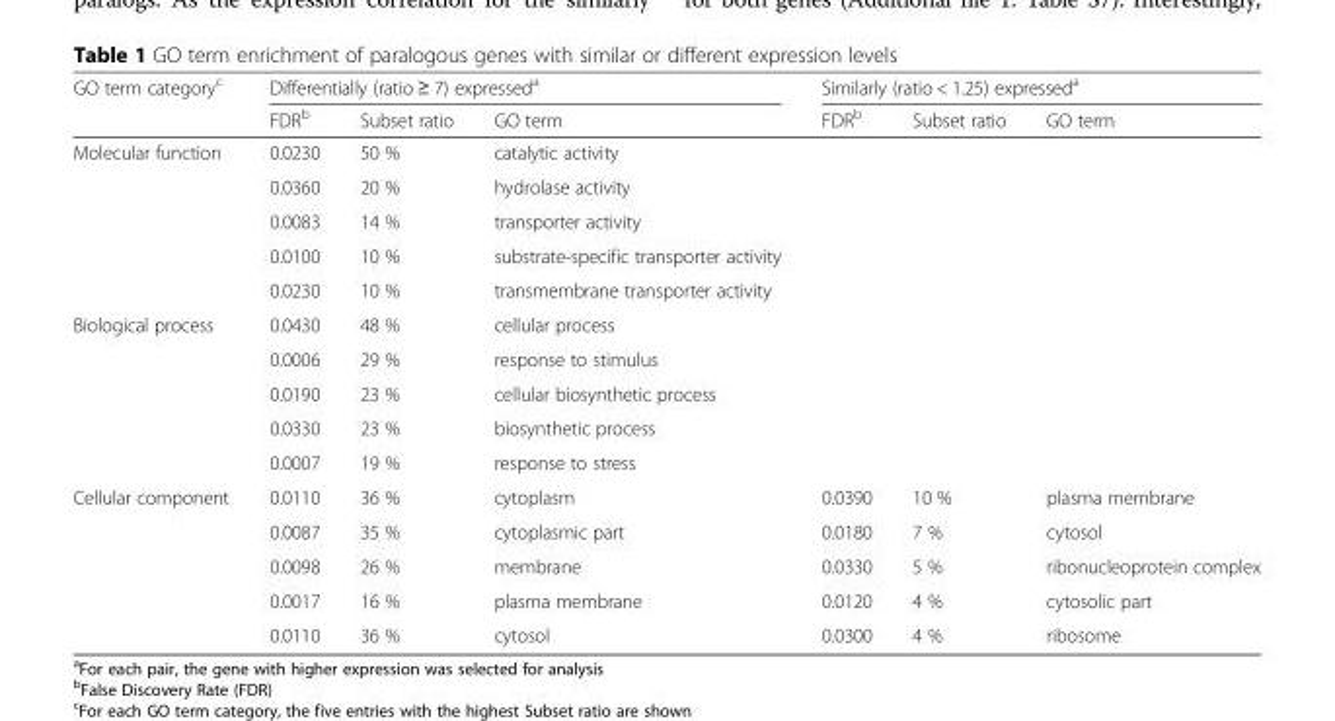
<table><thead><tr><td rowspan="2">GO term category<sup>c</sup></td><td colspan="3">Differentially (ratio ≥ 7) expressed<sup>a</sup></td><td colspan="3">Similarly (ratio &lt; 1.25) expressed<sup>a</sup></td></tr><tr><td>FDR<sup>b</sup></td><td>Subset ratio</td><td>GO term</td><td>FDR<sup>b</sup></td><td>Subset ratio</td><td>GO term</td></tr></thead><tbody><tr><td rowspan="5">Molecular function</td><td>0.0230</td><td>50 %</td><td>catalytic activity</td><td></td><td></td><td></td></tr><tr><td>0.0360</td><td>20 %</td><td>hydrolase activity</td><td></td><td></td><td></td></tr><tr><td>0.0083</td><td>14 %</td><td>transporter activity</td><td></td><td></td><td></td></tr><tr><td>0.0100</td><td>10 %</td><td>substrate-specific transporter activity</td><td></td><td></td><td></td></tr><tr><td>0.0230</td><td>10 %</td><td>transmembrane transporter activity</td><td></td><td></td><td></td></tr><tr><td rowspan="5">Biological process</td><td>0.0430</td><td>48 %</td><td>cellular process</td><td></td><td></td><td></td></tr><tr><td>0.0006</td><td>29 %</td><td>response to stimulus</td><td></td><td></td><td></td></tr><tr><td>0.0190</td><td>23 %</td><td>cellular biosynthetic process</td><td></td><td></td><td></td></tr><tr><td>0.0330</td><td>23 %</td><td>biosynthetic process</td><td></td><td></td><td></td></tr><tr><td>0.0007</td><td>19 %</td><td>response to stress</td><td></td><td></td><td></td></tr><tr><td rowspan="5">Cellular component</td><td>0.0110</td><td>36 %</td><td>cytoplasm</td><td>0.0390</td><td>10 %</td><td>plasma membrane</td></tr><tr><td>0.0087</td><td>35 %</td><td>cytoplasmic part</td><td>0.0180</td><td>7 %</td><td>cytosol</td></tr><tr><td>0.0098</td><td>26 %</td><td>membrane</td><td>0.0330</td><td>5 %</td><td>ribonucleoprotein complex</td></tr><tr><td>0.0017</td><td>16 %</td><td>plasma membrane</td><td>0.0120</td><td>4 %</td><td>cytosolic part</td></tr><tr><td>0.0110</td><td>36 %</td><td>cytosol</td><td>0.0300</td><td>4 %</td><td>ribosome</td></tr></tbody></table>